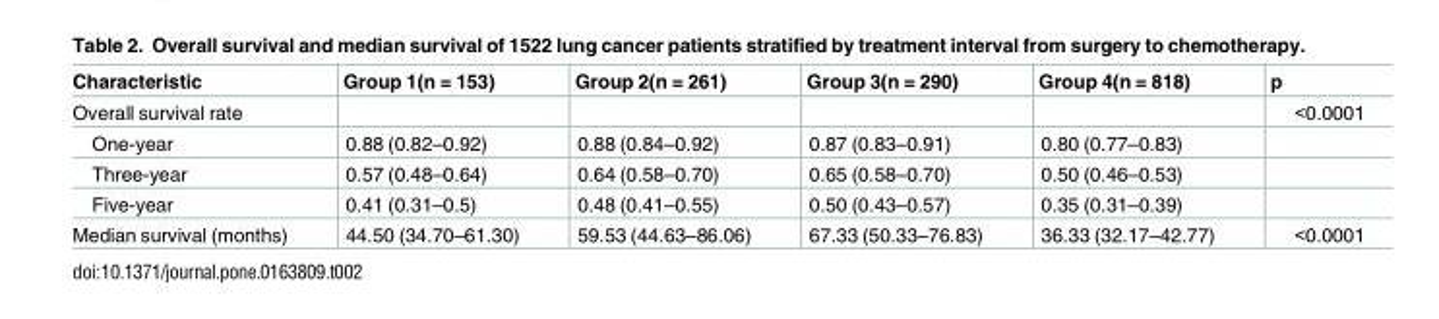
<table><thead><tr><td>Characteristic</td><td>Group 1(n = 153)</td><td>Group 2(n = 261)</td><td>Group 3(n = 290)</td><td>Group 4(n = 818)</td><td>p</td></tr></thead><tbody><tr><td>Overall survival rate</td><td></td><td></td><td></td><td></td><td>&lt;0.0001</td></tr><tr><td>One-year</td><td>0.88 (0.82–0.92)</td><td>0.88 (0.84–0.92)</td><td>0.87 (0.83–0.91)</td><td>0.80 (0.77–0.83)</td><td></td></tr><tr><td>Three-year</td><td>0.57 (0.48–0.64)</td><td>0.64 (0.58–0.70)</td><td>0.65 (0.58–0.70)</td><td>0.50 (0.46–0.53)</td><td></td></tr><tr><td>Five-year</td><td>0.41 (0.31–0.5)</td><td>0.48 (0.41–0.55)</td><td>0.50 (0.43–0.57)</td><td>0.35 (0.31–0.39)</td><td></td></tr><tr><td>Median survival (months)</td><td>44.50 (34.70–61.30)</td><td>59.53 (44.63–86.06)</td><td>67.33 (50.33–76.83)</td><td>36.33 (32.17–42.77)</td><td>&lt;0.0001</td></tr></tbody></table>